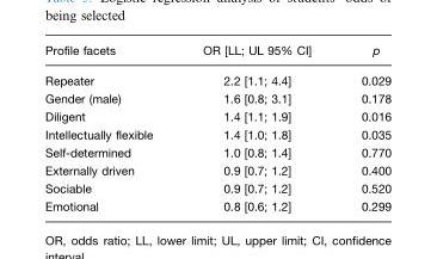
<table><thead><tr><td>Profile facets</td><td>OR [LL; UL 95% CI]</td><td>p</td></tr></thead><tbody><tr><td>Repeater</td><td>2.2 [1.1; 4.4]</td><td>0.029</td></tr><tr><td>Gender (male)</td><td>1.6 [0.8; 3.1]</td><td>0.178</td></tr><tr><td>Diligent</td><td>1.4 [1.1; 1.9]</td><td>0.016</td></tr><tr><td>Intellectually flexible</td><td>1.4 [1.0; 1.8]</td><td>0.035</td></tr><tr><td>Self-determined</td><td>1.0 [0.8; 1.4]</td><td>0.770</td></tr><tr><td>Externally driven</td><td>0.9 [0.7; 1.2]</td><td>0.400</td></tr><tr><td>Sociable</td><td>0.9 [0.7; 1.2]</td><td>0.520</td></tr><tr><td>Emotional</td><td>0.8 [0.6; 1.2]</td><td>0.299</td></tr></tbody></table>